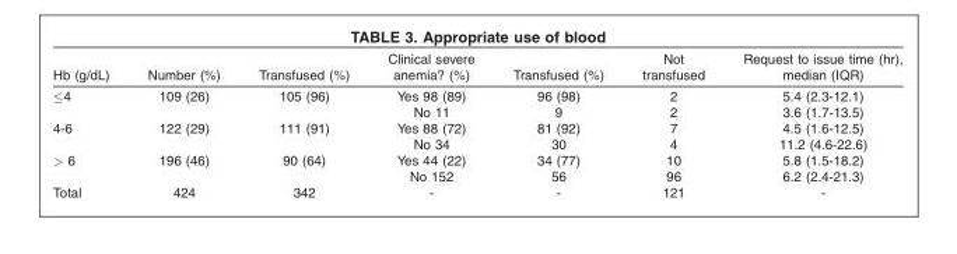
<table><thead><tr><td>Hb (g/dL)</td><td>Number (%)</td><td>Transfused (%)</td><td>Clinical severe anemia? (%)</td><td>Transfused (%)</td><td>Not transfused</td><td>Request to issue time (hr), median (IQR)</td></tr></thead><tbody><tr><td rowspan="2">≤4</td><td rowspan="2">109 (26)</td><td rowspan="2">105 (96)</td><td>Yes 98 (89)</td><td>96 (98)</td><td>2</td><td>5.4 (2.3-12.1)</td></tr><tr><td>No 11</td><td>9</td><td>2</td><td>3.6 (1.7-13.5)</td></tr><tr><td rowspan="2">4-6</td><td rowspan="2">122 (29)</td><td rowspan="2">111 (91)</td><td>Yes 88 (72)</td><td>81 (92)</td><td>7</td><td>4.5 (1.6-12.5)</td></tr><tr><td>No 34</td><td>30</td><td>4</td><td>11.2 (4.6-22.6)</td></tr><tr><td rowspan="2">&gt; 6</td><td rowspan="2">196 (46)</td><td rowspan="2">90 (64)</td><td>Yes 44 (22)</td><td>34 (77)</td><td>10</td><td>5.8 (1.5-18.2)</td></tr><tr><td>No 152</td><td>56</td><td>96</td><td>6.2 (2.4-21.3)</td></tr><tr><td>Total</td><td>424</td><td>342</td><td>-</td><td>-</td><td>121</td><td>-</td></tr></tbody></table>